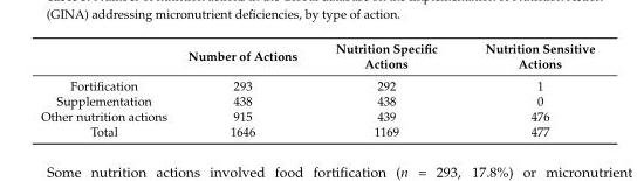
<table><thead><tr><td></td><td>Number of Actions</td><td>Nutrition Specific Actions</td><td>Nutrition Sensitive Actions</td></tr></thead><tbody><tr><td>Fortification</td><td>293</td><td>292</td><td>1</td></tr><tr><td>Supplementation</td><td>438</td><td>438</td><td>0</td></tr><tr><td>Other nutrition actions</td><td>915</td><td>439</td><td>476</td></tr><tr><td>Total</td><td>1646</td><td>1169</td><td>477</td></tr></tbody></table>